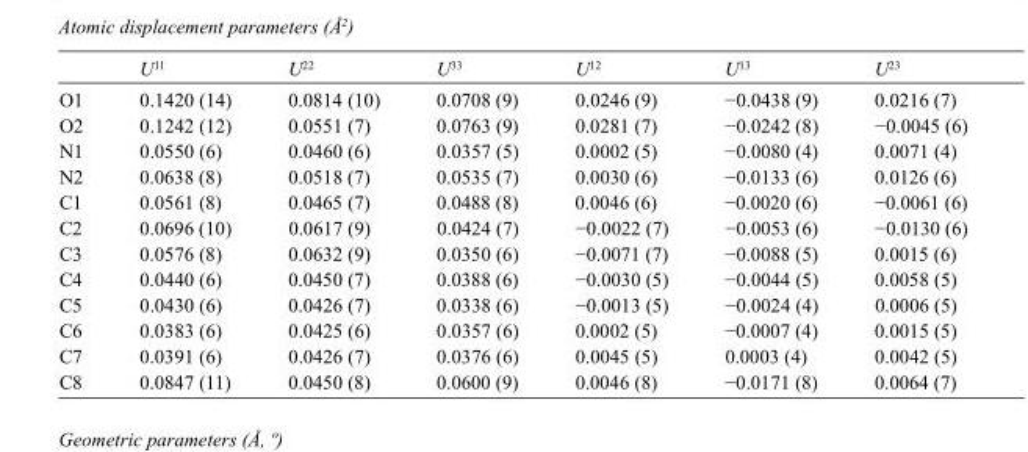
<table><thead><tr><td></td><td>U<sup>11</sup></td><td>U<sup>22</sup></td><td>U<sup>33</sup></td><td>U<sup>12</sup></td><td>U<sup>13</sup></td><td>U<sup>23</sup></td></tr></thead><tbody><tr><td>O1</td><td>0.1420 (14)</td><td>0.0814 (10)</td><td>0.0708 (9)</td><td>0.0246 (9)</td><td>−0.0438 (9)</td><td>0.0216 (7)</td></tr><tr><td>O2</td><td>0.1242 (12)</td><td>0.0551 (7)</td><td>0.0763 (9)</td><td>0.0281 (7)</td><td>−0.0242 (8)</td><td>−0.0045 (6)</td></tr><tr><td>N1</td><td>0.0550 (6)</td><td>0.0460 (6)</td><td>0.0357 (5)</td><td>0.0002 (5)</td><td>−0.0080 (4)</td><td>0.0071 (4)</td></tr><tr><td>N2</td><td>0.0638 (8)</td><td>0.0518 (7)</td><td>0.0535 (7)</td><td>0.0030 (6)</td><td>−0.0133 (6)</td><td>0.0126 (6)</td></tr><tr><td>C1</td><td>0.0561 (8)</td><td>0.0465 (7)</td><td>0.0488 (8)</td><td>0.0046 (6)</td><td>−0.0020 (6)</td><td>−0.0061 (6)</td></tr><tr><td>C2</td><td>0.0696 (10)</td><td>0.0617 (9)</td><td>0.0424 (7)</td><td>−0.0022 (7)</td><td>−0.0053 (6)</td><td>−0.0130 (6)</td></tr><tr><td>C3</td><td>0.0576 (8)</td><td>0.0632 (9)</td><td>0.0350 (6)</td><td>−0.0071 (7)</td><td>−0.0088 (5)</td><td>0.0015 (6)</td></tr><tr><td>C4</td><td>0.0440 (6)</td><td>0.0450 (7)</td><td>0.0388 (6)</td><td>−0.0030 (5)</td><td>−0.0044 (5)</td><td>0.0058 (5)</td></tr><tr><td>C5</td><td>0.0430 (6)</td><td>0.0426 (7)</td><td>0.0338 (6)</td><td>−0.0013 (5)</td><td>−0.0024 (4)</td><td>0.0006 (5)</td></tr><tr><td>C6</td><td>0.0383 (6)</td><td>0.0425 (6)</td><td>0.0357 (6)</td><td>0.0002 (5)</td><td>−0.0007 (4)</td><td>0.0015 (5)</td></tr><tr><td>C7</td><td>0.0391 (6)</td><td>0.0426 (7)</td><td>0.0376 (6)</td><td>0.0045 (5)</td><td>0.0003 (4)</td><td>0.0042 (5)</td></tr><tr><td>C8</td><td>0.0847 (11)</td><td>0.0450 (8)</td><td>0.0600 (9)</td><td>0.0046 (8)</td><td>−0.0171 (8)</td><td>0.0064 (7)</td></tr></tbody></table>